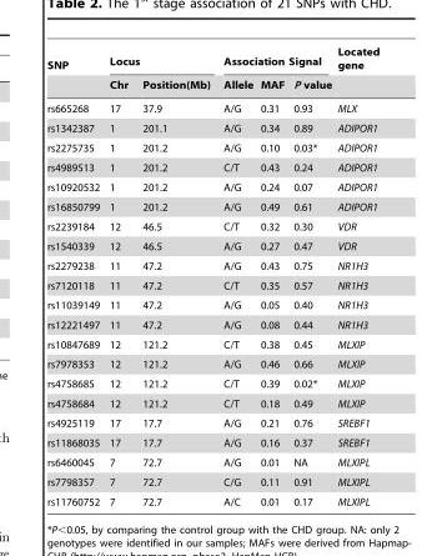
<table><thead><tr><td rowspan="2">SNP</td><td colspan="2">Locus</td><td colspan="3">Association Signal</td><td rowspan="2">Located gene</td></tr><tr><td>Chr</td><td>Position(Mb)</td><td>Allele</td><td>MAF</td><td>P value</td></tr></thead><tbody><tr><td>rs665268</td><td>17</td><td>37.9</td><td>A/G</td><td>0.31</td><td>0.93</td><td>MLX</td></tr><tr><td>rs1342387</td><td>1</td><td>201.1</td><td>A/G</td><td>0.34</td><td>0.89</td><td>ADIPOR1</td></tr><tr><td>rs2275735</td><td>1</td><td>201.2</td><td>A/G</td><td>0.10</td><td>0.03*</td><td>ADIPOR1</td></tr><tr><td>rs4989513</td><td>1</td><td>201.2</td><td>C/T</td><td>0.43</td><td>0.24</td><td>ADIPOR1</td></tr><tr><td>rs10920532</td><td>1</td><td>201.2</td><td>A/G</td><td>0.24</td><td>0.07</td><td>ADIPOR1</td></tr><tr><td>rs16850799</td><td>1</td><td>201.2</td><td>A/G</td><td>0.49</td><td>0.61</td><td>ADIPOR1</td></tr><tr><td>rs2239184</td><td>12</td><td>46.5</td><td>C/T</td><td>0.32</td><td>0.30</td><td>VDR</td></tr><tr><td>rs1540339</td><td>12</td><td>46.5</td><td>A/G</td><td>0.27</td><td>0.47</td><td>VDR</td></tr><tr><td>rs2279238</td><td>11</td><td>47.2</td><td>A/G</td><td>0.43</td><td>0.75</td><td>NR1H3</td></tr><tr><td>rs7120118</td><td>11</td><td>47.2</td><td>C/T</td><td>0.35</td><td>0.57</td><td>NR1H3</td></tr><tr><td>rs11039149</td><td>11</td><td>47.2</td><td>A/G</td><td>0.05</td><td>0.40</td><td>NR1H3</td></tr><tr><td>rs12221497</td><td>11</td><td>47.2</td><td>A/G</td><td>0.08</td><td>0.44</td><td>NR1H3</td></tr><tr><td>rs10847689</td><td>12</td><td>121.2</td><td>C/T</td><td>0.38</td><td>0.45</td><td>MLXIP</td></tr><tr><td>rs7978353</td><td>12</td><td>121.2</td><td>A/G</td><td>0.46</td><td>0.66</td><td>MLXIP</td></tr><tr><td>rs4758685</td><td>12</td><td>121.2</td><td>C/T</td><td>0.39</td><td>0.02*</td><td>MLXIP</td></tr><tr><td>rs4758684</td><td>12</td><td>121.2</td><td>C/T</td><td>0.18</td><td>0.49</td><td>MLXIP</td></tr><tr><td>rs4925119</td><td>17</td><td>17.7</td><td>A/G</td><td>0.21</td><td>0.76</td><td>SREBF1</td></tr><tr><td>rs11868035</td><td>17</td><td>17.7</td><td>A/G</td><td>0.16</td><td>0.37</td><td>SREBF1</td></tr><tr><td>rs6460045</td><td>7</td><td>72.7</td><td>A/G</td><td>0.01</td><td>NA</td><td>MLXIPL</td></tr><tr><td>rs7798357</td><td>7</td><td>72.7</td><td>C/G</td><td>0.11</td><td>0.91</td><td>MLXIPL</td></tr><tr><td>rs11760752</td><td>7</td><td>72.7</td><td>A/C</td><td>0.01</td><td>0.17</td><td>MLXIPL</td></tr></tbody></table>